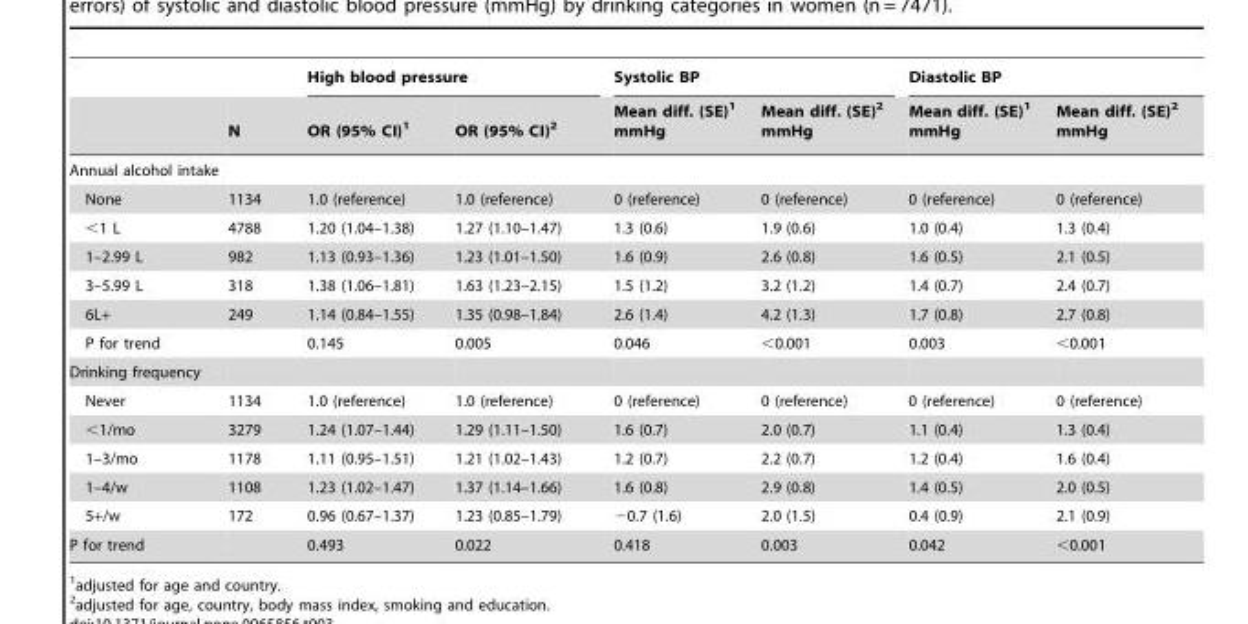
<table><thead><tr><td rowspan="2"></td><td rowspan="2">N</td><td colspan="2">High blood pressure</td><td colspan="2">Systolic BP</td><td colspan="2">Diastolic BP</td></tr><tr><td>OR (95% CI)<sup>1</sup></td><td>OR (95% CI)<sup>2</sup></td><td>Mean diff. (SE)<sup>1</sup> mmHg</td><td>Mean diff. (SE)<sup>2</sup> mmHg</td><td>Mean diff. (SE)<sup>1</sup> mmHg</td><td>Mean diff. (SE)<sup>2</sup> mmHg</td></tr></thead><tbody><tr><td colspan="8">Annual alcohol intake</td></tr><tr><td>None</td><td>1134</td><td>1.0 (reference)</td><td>1.0 (reference)</td><td>0 (reference)</td><td>0 (reference)</td><td>0 (reference)</td><td>0 (reference)</td></tr><tr><td>&lt;1 L</td><td>4788</td><td>1.20 (1.04–1.38)</td><td>1.27 (1.10–1.47)</td><td>1.3 (0.6)</td><td>1.9 (0.6)</td><td>1.0 (0.4)</td><td>1.3 (0.4)</td></tr><tr><td>1–2.99 L</td><td>982</td><td>1.13 (0.93–1.36)</td><td>1.23 (1.01–1.50)</td><td>1.6 (0.9)</td><td>2.6 (0.8)</td><td>1.6 (0.5)</td><td>2.1 (0.5)</td></tr><tr><td>3–5.99 L</td><td>318</td><td>1.38 (1.06–1.81)</td><td>1.63 (1.23–2.15)</td><td>1.5 (1.2)</td><td>3.2 (1.2)</td><td>1.4 (0.7)</td><td>2.4 (0.7)</td></tr><tr><td>6L+</td><td>249</td><td>1.14 (0.84–1.55)</td><td>1.35 (0.98–1.84)</td><td>2.6 (1.4)</td><td>4.2 (1.3)</td><td>1.7 (0.8)</td><td>2.7 (0.8)</td></tr><tr><td>P for trend</td><td></td><td>0.145</td><td>0.005</td><td>0.046</td><td>&lt;0.001</td><td>0.003</td><td>&lt;0.001</td></tr><tr><td colspan="8">Drinking frequency</td></tr><tr><td>Never</td><td>1134</td><td>1.0 (reference)</td><td>1.0 (reference)</td><td>0 (reference)</td><td>0 (reference)</td><td>0 (reference)</td><td>0 (reference)</td></tr><tr><td>&lt;1/mo</td><td>3279</td><td>1.24 (1.07–1.44)</td><td>1.29 (1.11–1.50)</td><td>1.6 (0.7)</td><td>2.0 (0.7)</td><td>1.1 (0.4)</td><td>1.3 (0.4)</td></tr><tr><td>1–3/mo</td><td>1178</td><td>1.11 (0.95–1.51)</td><td>1.21 (1.02–1.43)</td><td>1.2 (0.7)</td><td>2.2 (0.7)</td><td>1.2 (0.4)</td><td>1.6 (0.4)</td></tr><tr><td>1–4/w</td><td>1108</td><td>1.23 (1.02–1.47)</td><td>1.37 (1.14–1.66)</td><td>1.6 (0.8)</td><td>2.9 (0.8)</td><td>1.4 (0.5)</td><td>2.0 (0.5)</td></tr><tr><td>5+/w</td><td>172</td><td>0.96 (0.67–1.37)</td><td>1.23 (0.85–1.79)</td><td>−0.7 (1.6)</td><td>2.0 (1.5)</td><td>0.4 (0.9)</td><td>2.1 (0.9)</td></tr><tr><td>P for trend</td><td></td><td>0.493</td><td>0.022</td><td>0.418</td><td>0.003</td><td>0.042</td><td>&lt;0.001</td></tr></tbody></table>